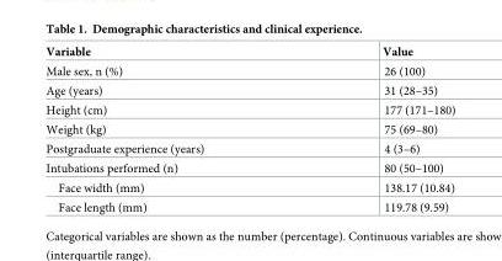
<table><thead><tr><td>Variable</td><td>Value</td></tr></thead><tbody><tr><td>Male sex, n (%)</td><td>26 (100)</td></tr><tr><td>Age (years)</td><td>31 (28–35)</td></tr><tr><td>Height (cm)</td><td>177 (171–180)</td></tr><tr><td>Weight (kg)</td><td>75 (69–80)</td></tr><tr><td>Postgraduate experience (years)</td><td>4 (3–6)</td></tr><tr><td>Intubations performed (n)</td><td>80 (50–100)</td></tr><tr><td>Face width (mm)</td><td>138.17 (10.84)</td></tr><tr><td>Face length (mm)</td><td>119.78 (9.59)</td></tr></tbody></table>